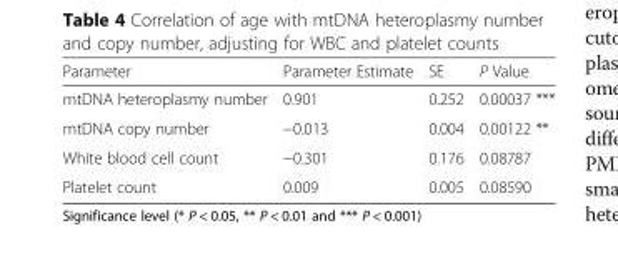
<table><thead><tr><td>Parameter</td><td>Parameter Estimate</td><td>SE</td><td>P Value</td></tr></thead><tbody><tr><td>mtDNA heteroplasmy number</td><td>0.901</td><td>0.252</td><td>0.00037 ***</td></tr><tr><td>mtDNA copy number</td><td>−0.013</td><td>0.004</td><td>0.00122 **</td></tr><tr><td>White blood cell count</td><td>−0.301</td><td>0.176</td><td>0.08787</td></tr><tr><td>Platelet count</td><td>0.009</td><td>0.005</td><td>0.08590</td></tr></tbody></table>